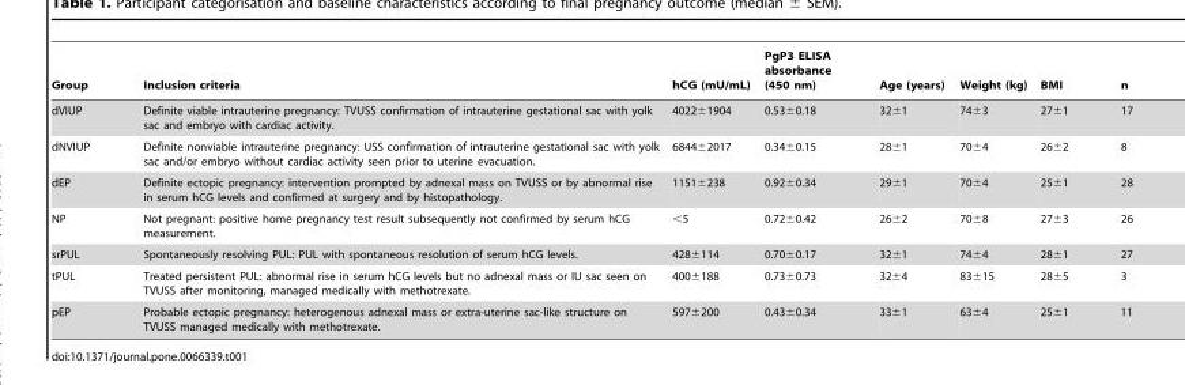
<table><thead><tr><td>Group</td><td>Inclusion criteria</td><td>hCG (mU/mL)</td><td>PgP3 ELISA absorbance (450 nm)</td><td>Age (years)</td><td>Weight (kg)</td><td>BMI</td><td>n</td></tr></thead><tbody><tr><td>dVIUP</td><td>Definite viable intrauterine pregnancy: TVUSS confirmation of intrauterine gestational sac with yolk sac and embryo with cardiac activity.</td><td>4022±1904</td><td>0.53±0.18</td><td>32±1</td><td>74±3</td><td>27±1</td><td>17</td></tr><tr><td>dNVIUP</td><td>Definite nonviable intrauterine pregnancy: USS confirmation of intrauterine gestational sac with yolk sac and/or embryo without cardiac activity seen prior to uterine evacuation.</td><td>6844±2017</td><td>0.34±0.15</td><td>28±1</td><td>70±4</td><td>26±2</td><td>8</td></tr><tr><td>dEP</td><td>Definite ectopic pregnancy: intervention prompted by adnexal mass on TVUSS or by abnormal rise in serum hCG levels and confirmed at surgery and by histopathology.</td><td>1151±238</td><td>0.92±0.34</td><td>29±1</td><td>70±4</td><td>25±1</td><td>28</td></tr><tr><td>NP</td><td>Not pregnant: positive home pregnancy test result subsequently not confirmed by serum hCG measurement.</td><td>&lt;5</td><td>0.72±0.42</td><td>26±2</td><td>70±8</td><td>27±3</td><td>26</td></tr><tr><td>srPUL</td><td>Spontaneously resolving PUL: PUL with spontaneous resolution of serum hCG levels.</td><td>428±114</td><td>0.70±0.17</td><td>32±1</td><td>74±4</td><td>28±1</td><td>27</td></tr><tr><td>tPUL</td><td>Treated persistent PUL: abnormal rise in serum hCG levels but no adnexal mass or IU sac seen on TVUSS after monitoring, managed medically with methotrexate.</td><td>400±188</td><td>0.73±0.73</td><td>32±4</td><td>83±15</td><td>28±5</td><td>3</td></tr><tr><td>pEP</td><td>Probable ectopic pregnancy: heterogenous adnexal mass or extra-uterine sac-like structure on TVUSS managed medically with methotrexate.</td><td>597±200</td><td>0.43±0.34</td><td>33±1</td><td>63±4</td><td>25±1</td><td>11</td></tr></tbody></table>